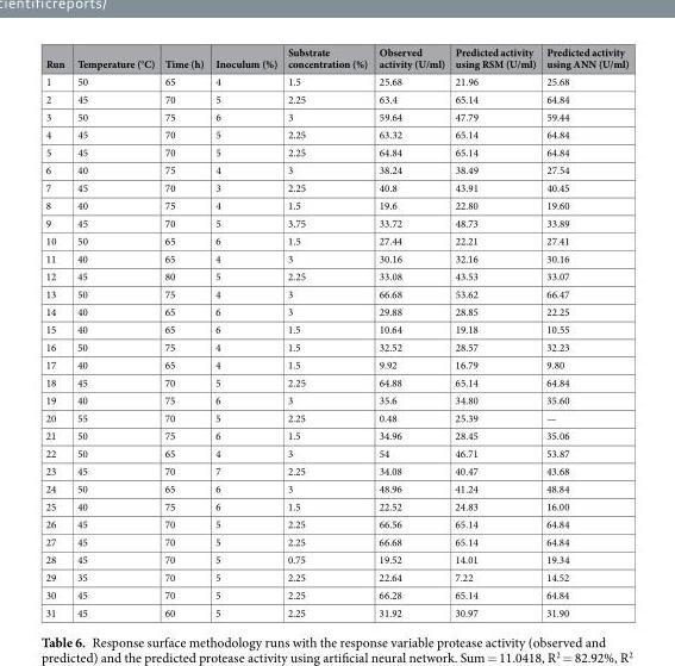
<table><thead><tr><td>Run</td><td>Temperature (°C)</td><td>Time (h)</td><td>Inoculum (%)</td><td>Substrate concentration (%)</td><td>Observed activity (U/ml)</td><td>Predicted activity using RSM (U/ml)</td><td>Predicted activity using ANN (U/ml)</td></tr></thead><tbody><tr><td>1</td><td>50</td><td>65</td><td>4</td><td>1.5</td><td>25.68</td><td>21.96</td><td>25.68</td></tr><tr><td>2</td><td>45</td><td>70</td><td>5</td><td>2.25</td><td>63.4</td><td>65.14</td><td>64.84</td></tr><tr><td>3</td><td>50</td><td>75</td><td>6</td><td>3</td><td>59.64</td><td>47.79</td><td>59.44</td></tr><tr><td>4</td><td>45</td><td>70</td><td>5</td><td>2.25</td><td>63.32</td><td>65.14</td><td>64.84</td></tr><tr><td>5</td><td>45</td><td>70</td><td>5</td><td>2.25</td><td>64.84</td><td>65.14</td><td>64.84</td></tr><tr><td>6</td><td>40</td><td>75</td><td>4</td><td>3</td><td>38.24</td><td>38.49</td><td>27.54</td></tr><tr><td>7</td><td>45</td><td>70</td><td>3</td><td>2.25</td><td>40.8</td><td>43.91</td><td>40.45</td></tr><tr><td>8</td><td>40</td><td>75</td><td>4</td><td>1.5</td><td>19.6</td><td>22.80</td><td>19.60</td></tr><tr><td>9</td><td>45</td><td>70</td><td>5</td><td>3.75</td><td>33.72</td><td>48.73</td><td>33.89</td></tr><tr><td>10</td><td>50</td><td>65</td><td>6</td><td>1.5</td><td>27.44</td><td>22.21</td><td>27.41</td></tr><tr><td>11</td><td>40</td><td>65</td><td>4</td><td>3</td><td>30.16</td><td>32.16</td><td>30.16</td></tr><tr><td>12</td><td>45</td><td>80</td><td>5</td><td>2.25</td><td>33.08</td><td>43.53</td><td>33.07</td></tr><tr><td>13</td><td>50</td><td>75</td><td>4</td><td>3</td><td>66.68</td><td>53.62</td><td>66.47</td></tr><tr><td>14</td><td>40</td><td>65</td><td>6</td><td>3</td><td>29.88</td><td>28.85</td><td>22.25</td></tr><tr><td>15</td><td>40</td><td>65</td><td>6</td><td>1.5</td><td>10.64</td><td>19.18</td><td>10.55</td></tr><tr><td>16</td><td>50</td><td>75</td><td>4</td><td>1.5</td><td>32.52</td><td>28.57</td><td>32.23</td></tr><tr><td>17</td><td>40</td><td>65</td><td>4</td><td>1.5</td><td>9.92</td><td>16.79</td><td>9.80</td></tr><tr><td>18</td><td>45</td><td>70</td><td>5</td><td>2.25</td><td>64.88</td><td>65.14</td><td>64.84</td></tr><tr><td>19</td><td>40</td><td>75</td><td>6</td><td>3</td><td>35.6</td><td>34.80</td><td>35.60</td></tr><tr><td>20</td><td>55</td><td>70</td><td>5</td><td>2.25</td><td>0.48</td><td>25.39</td><td>—</td></tr><tr><td>21</td><td>50</td><td>75</td><td>6</td><td>1.5</td><td>34.96</td><td>28.45</td><td>35.06</td></tr><tr><td>22</td><td>50</td><td>65</td><td>4</td><td>3</td><td>54</td><td>46.71</td><td>53.87</td></tr><tr><td>23</td><td>45</td><td>70</td><td>7</td><td>2.25</td><td>34.08</td><td>40.47</td><td>43.68</td></tr><tr><td>24</td><td>50</td><td>65</td><td>6</td><td>3</td><td>48.96</td><td>41.24</td><td>48.84</td></tr><tr><td>25</td><td>40</td><td>75</td><td>6</td><td>1.5</td><td>22.52</td><td>24.83</td><td>16.00</td></tr><tr><td>26</td><td>45</td><td>70</td><td>5</td><td>2.25</td><td>66.56</td><td>65.14</td><td>64.84</td></tr><tr><td>27</td><td>45</td><td>70</td><td>5</td><td>2.25</td><td>66.68</td><td>65.14</td><td>64.84</td></tr><tr><td>28</td><td>45</td><td>70</td><td>5</td><td>0.75</td><td>19.52</td><td>14.01</td><td>19.34</td></tr><tr><td>29</td><td>35</td><td>70</td><td>5</td><td>2.25</td><td>22.64</td><td>7.22</td><td>14.52</td></tr><tr><td>30</td><td>45</td><td>70</td><td>5</td><td>2.25</td><td>66.28</td><td>65.14</td><td>64.84</td></tr><tr><td>31</td><td>45</td><td>60</td><td>5</td><td>2.25</td><td>31.92</td><td>30.97</td><td>31.90</td></tr></tbody></table>